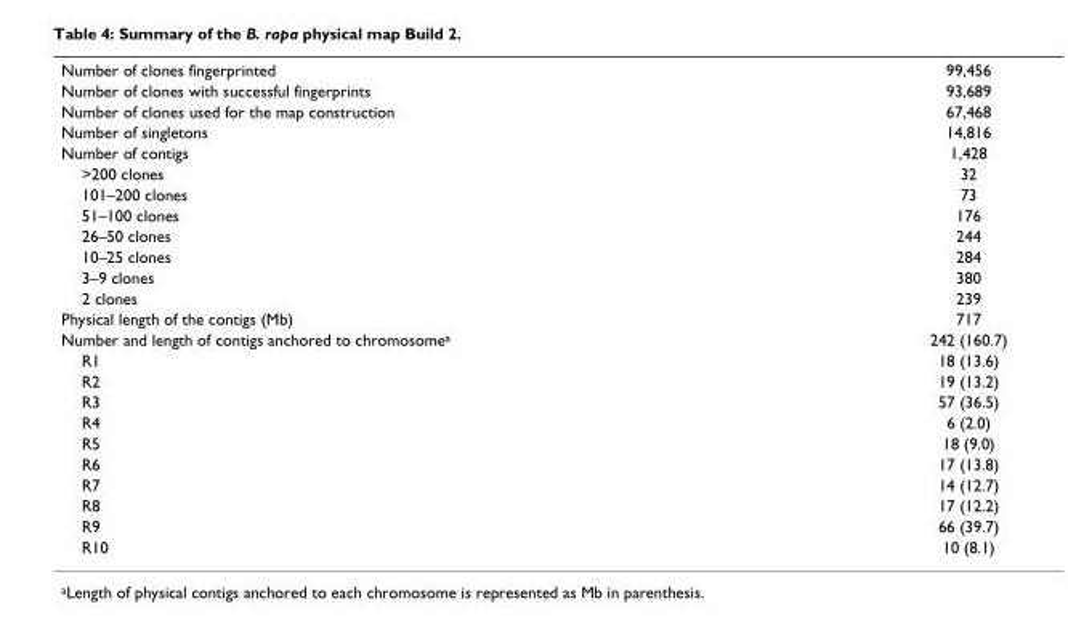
<table><tbody><tr><td>Number of clones fingerprinted</td><td>99,456</td></tr><tr><td>Number of clones with successful fingerprints</td><td>93,689</td></tr><tr><td>Number of clones used for the map construction</td><td>67,468</td></tr><tr><td>Number of singletons</td><td>14,816</td></tr><tr><td>Number of contigs</td><td>1,428</td></tr><tr><td>&gt;200 clones</td><td>32</td></tr><tr><td>101–200 clones</td><td>73</td></tr><tr><td>51–100 clones</td><td>176</td></tr><tr><td>26–50 clones</td><td>244</td></tr><tr><td>10–25 clones</td><td>284</td></tr><tr><td>3–9 clones</td><td>380</td></tr><tr><td>2 clones</td><td>239</td></tr><tr><td>Physical length of the contigs (Mb)</td><td>717</td></tr><tr><td>Number and length of contigs anchored to chromosome<sup>a</sup></td><td>242 (160.7)</td></tr><tr><td>R1</td><td>18 (13.6)</td></tr><tr><td>R2</td><td>19 (13.2)</td></tr><tr><td>R3</td><td>57 (36.5)</td></tr><tr><td>R4</td><td>6 (2.0)</td></tr><tr><td>R5</td><td>18 (9.0)</td></tr><tr><td>R6</td><td>17 (13.8)</td></tr><tr><td>R7</td><td>14 (12.7)</td></tr><tr><td>R8</td><td>17 (12.2)</td></tr><tr><td>R9</td><td>66 (39.7)</td></tr><tr><td>R10</td><td>10 (8.1)</td></tr></tbody></table>